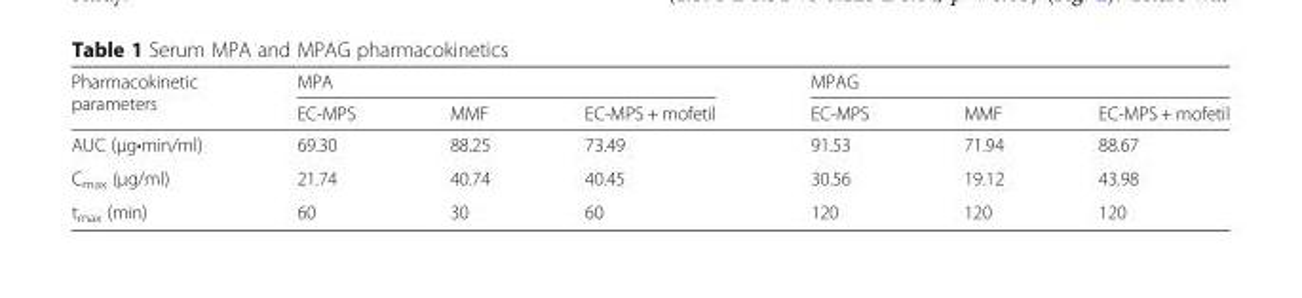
<table><thead><tr><td rowspan="2">Pharmacokinetic parameters</td><td colspan="3">MPA</td><td colspan="3">MPAG</td></tr><tr><td>EC-MPS</td><td>MMF</td><td>EC-MPS + mofetil</td><td>EC-MPS</td><td>MMF</td><td>EC-MPS + mofetil</td></tr></thead><tbody><tr><td>AUC (μg•min/ml)</td><td>69.30</td><td>88.25</td><td>73.49</td><td>91.53</td><td>71.94</td><td>88.67</td></tr><tr><td>C<sub>max</sub> (μg/ml)</td><td>21.74</td><td>40.74</td><td>40.45</td><td>30.56</td><td>19.12</td><td>43.98</td></tr><tr><td>t<sub>max</sub> (min)</td><td>60</td><td>30</td><td>60</td><td>120</td><td>120</td><td>120</td></tr></tbody></table>